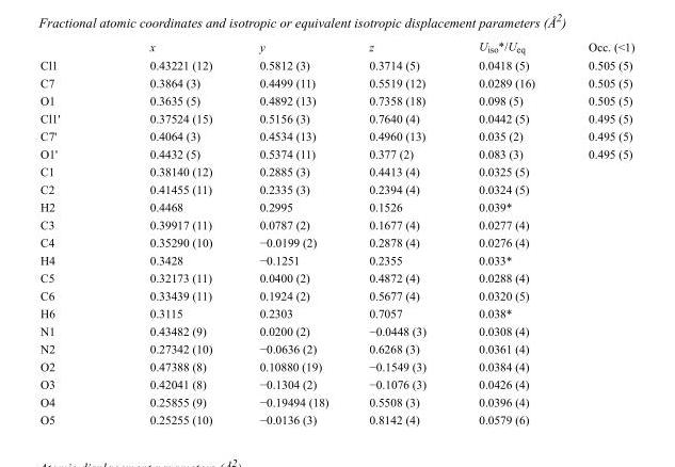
<table><thead><tr><td></td><td>x</td><td>y</td><td>z</td><td>U<sub>iso</sub>*/U<sub>eq</sub></td><td>Occ. (&lt;1)</td></tr></thead><tbody><tr><td>Cl1</td><td>0.43221 (12)</td><td>0.5812 (3)</td><td>0.3714 (5)</td><td>0.0418 (5)</td><td>0.505 (5)</td></tr><tr><td>C7</td><td>0.3864 (3)</td><td>0.4499 (11)</td><td>0.5519 (12)</td><td>0.0289 (16)</td><td>0.505 (5)</td></tr><tr><td>O1</td><td>0.3635 (5)</td><td>0.4892 (13)</td><td>0.7358 (18)</td><td>0.098 (5)</td><td>0.505 (5)</td></tr><tr><td>Cl1&#x27;</td><td>0.37524 (15)</td><td>0.5156 (3)</td><td>0.7640 (4)</td><td>0.0442 (5)</td><td>0.495 (5)</td></tr><tr><td>C7&#x27;</td><td>0.4064 (3)</td><td>0.4534 (13)</td><td>0.4960 (13)</td><td>0.035 (2)</td><td>0.495 (5)</td></tr><tr><td>O1&#x27;</td><td>0.4432 (5)</td><td>0.5374 (11)</td><td>0.377 (2)</td><td>0.083 (3)</td><td>0.495 (5)</td></tr><tr><td>C1</td><td>0.38140 (12)</td><td>0.2885 (3)</td><td>0.4413 (4)</td><td>0.0325 (5)</td><td></td></tr><tr><td>C2</td><td>0.41455 (11)</td><td>0.2335 (3)</td><td>0.2394 (4)</td><td>0.0324 (5)</td><td></td></tr><tr><td>H2</td><td>0.4468</td><td>0.2995</td><td>0.1526</td><td>0.039*</td><td></td></tr><tr><td>C3</td><td>0.39917 (11)</td><td>0.0787 (2)</td><td>0.1677 (4)</td><td>0.0277 (4)</td><td></td></tr><tr><td>C4</td><td>0.35290 (10)</td><td>−0.0199 (2)</td><td>0.2878 (4)</td><td>0.0276 (4)</td><td></td></tr><tr><td>H4</td><td>0.3428</td><td>−0.1251</td><td>0.2355</td><td>0.033*</td><td></td></tr><tr><td>C5</td><td>0.32173 (11)</td><td>0.0400 (2)</td><td>0.4872 (4)</td><td>0.0288 (4)</td><td></td></tr><tr><td>C6</td><td>0.33439 (11)</td><td>0.1924 (2)</td><td>0.5677 (4)</td><td>0.0320 (5)</td><td></td></tr><tr><td>H6</td><td>0.3115</td><td>0.2303</td><td>0.7057</td><td>0.038*</td><td></td></tr><tr><td>N1</td><td>0.43482 (9)</td><td>0.0200 (2)</td><td>−0.0448 (3)</td><td>0.0308 (4)</td><td></td></tr><tr><td>N2</td><td>0.27342 (10)</td><td>−0.0636 (2)</td><td>0.6268 (3)</td><td>0.0361 (4)</td><td></td></tr><tr><td>O2</td><td>0.47388 (8)</td><td>0.10880 (19)</td><td>−0.1549 (3)</td><td>0.0384 (4)</td><td></td></tr><tr><td>O3</td><td>0.42041 (8)</td><td>−0.1304 (2)</td><td>−0.1076 (3)</td><td>0.0426 (4)</td><td></td></tr><tr><td>O4</td><td>0.25855 (9)</td><td>−0.19494 (18)</td><td>0.5508 (3)</td><td>0.0396 (4)</td><td></td></tr><tr><td>O5</td><td>0.25255 (10)</td><td>−0.0136 (3)</td><td>0.8142 (4)</td><td>0.0579 (6)</td><td></td></tr></tbody></table>